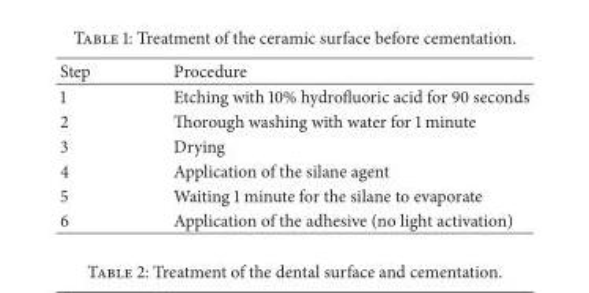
<table><thead><tr><td>Step</td><td>Procedure</td></tr></thead><tbody><tr><td>1</td><td>Etching with 10% hydrofluoric acid for 90 seconds</td></tr><tr><td>2</td><td>Thorough washing with water for 1 minute</td></tr><tr><td>3</td><td>Drying</td></tr><tr><td>4</td><td>Application of the silane agent</td></tr><tr><td>5</td><td>Waiting 1 minute for the silane to evaporate</td></tr><tr><td>6</td><td>Application of the adhesive (no light activation)</td></tr></tbody></table>